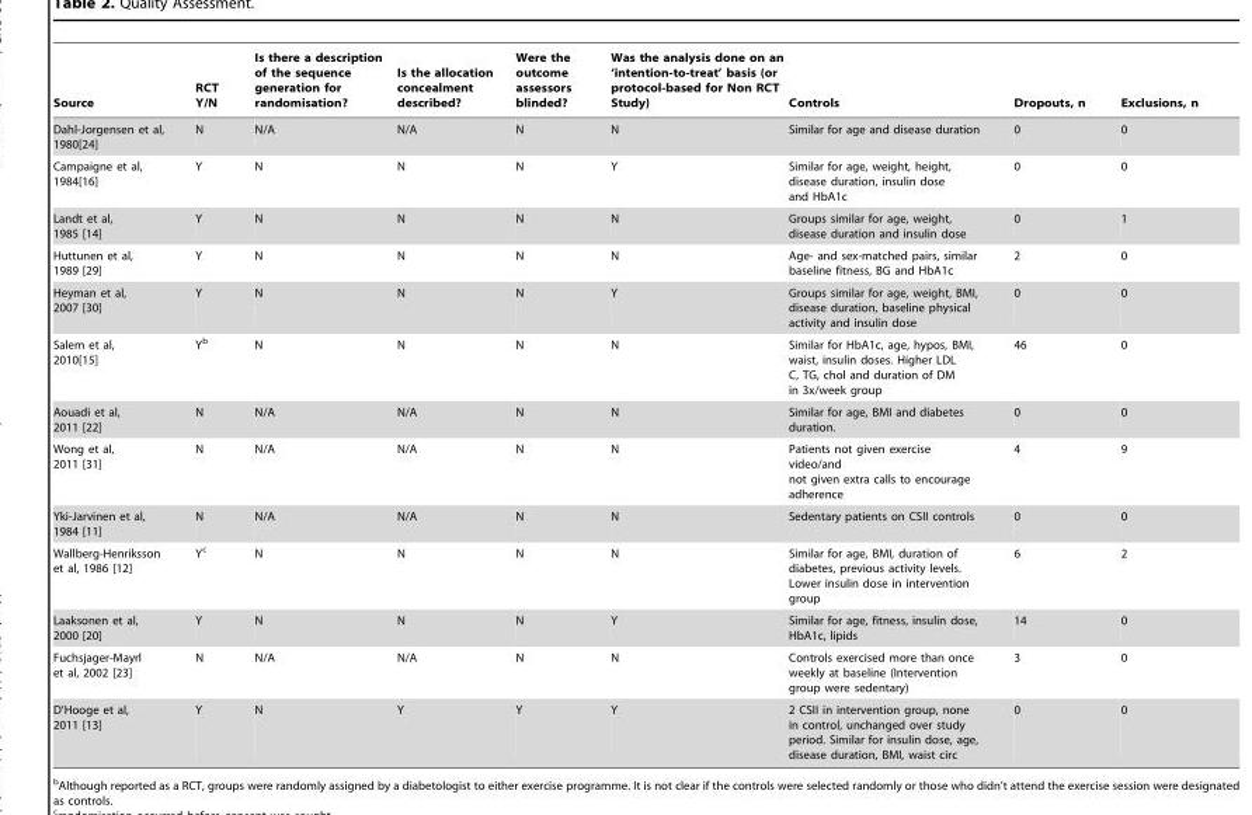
<table><thead><tr><td>Source</td><td>RCT Y/N</td><td>Is there a description of the sequence generation for randomisation?</td><td>Is the allocation concealment described?</td><td>Were the outcome assessors blinded?</td><td>Was the analysis done on an ‘intention-to-treat’ basis (or protocol-based for Non RCT Study)</td><td>Controls</td><td>Dropouts, n</td><td>Exclusions, n</td></tr></thead><tbody><tr><td>Dahl-Jorgensen et al, 1980[24]</td><td>N</td><td>N/A</td><td>N/A</td><td>N</td><td>N</td><td>Similar for age and disease duration</td><td>0</td><td>0</td></tr><tr><td>Campaigne et al, 1984[16]</td><td>Y</td><td>N</td><td>N</td><td>N</td><td>Y</td><td>Similar for age, weight, height, disease duration, insulin dose and HbA1c</td><td>0</td><td>0</td></tr><tr><td>Landt et al, 1985 [14]</td><td>Y</td><td>N</td><td>N</td><td>N</td><td>N</td><td>Groups similar for age, weight, disease duration and insulin dose</td><td>0</td><td>1</td></tr><tr><td>Huttunen et al, 1989 [29]</td><td>Y</td><td>N</td><td>N</td><td>N</td><td>N</td><td>Age- and sex-matched pairs, similar baseline fitness, BG and HbA1c</td><td>2</td><td>0</td></tr><tr><td>Heyman et al, 2007 [30]</td><td>Y</td><td>N</td><td>N</td><td>N</td><td>Y</td><td>Groups similar for age, weight, BMI, disease duration, baseline physical activity and insulin dose</td><td>0</td><td>0</td></tr><tr><td>Salem et al, 2010[15]</td><td>Y<sup>b</sup></td><td>N</td><td>N</td><td>N</td><td>N</td><td>Similar for HbA1c, age, hypos, BMI, waist, insulin doses. Higher LDL C, TG, chol and duration of DM in 3x/week group</td><td>46</td><td>0</td></tr><tr><td>Aouadi et al, 2011 [22]</td><td>N</td><td>N/A</td><td>N/A</td><td>N</td><td>N</td><td>Similar for age, BMI and diabetes duration.</td><td>0</td><td>0</td></tr><tr><td>Wong et al, 2011 [31]</td><td>N</td><td>N/A</td><td>N/A</td><td>N</td><td>N</td><td>Patients not given exercise video/and not given extra calls to encourage adherence</td><td>4</td><td>9</td></tr><tr><td>Yki-Jarvinen et al, 1984 [11]</td><td>N</td><td>N/A</td><td>N/A</td><td>N</td><td>N</td><td>Sedentary patients on CSII controls</td><td>0</td><td>0</td></tr><tr><td>Wallberg-Henriksson et al, 1986 [12]</td><td>Y<sup>c</sup></td><td>N</td><td>N</td><td>N</td><td>N</td><td>Similar for age, BMI, duration of diabetes, previous activity levels. Lower insulin dose in intervention group</td><td>6</td><td>2</td></tr><tr><td>Laaksonen et al, 2000 [20]</td><td>Y</td><td>N</td><td>N</td><td>N</td><td>Y</td><td>Similar for age, fitness, insulin dose, HbA1c, lipids</td><td>14</td><td>0</td></tr><tr><td>Fuchsjager-Mayrl et al, 2002 [23]</td><td>N</td><td>N/A</td><td>N/A</td><td>N</td><td>N</td><td>Controls exercised more than once weekly at baseline (Intervention group were sedentary)</td><td>3</td><td>0</td></tr><tr><td>D’Hooge et al, 2011 [13]</td><td>Y</td><td>N</td><td>Y</td><td>Y</td><td>Y</td><td>2 CSII in intervention group, none in control, unchanged over study period. Similar for insulin dose, age, disease duration, BMI, waist circ</td><td>0</td><td>0</td></tr></tbody></table>